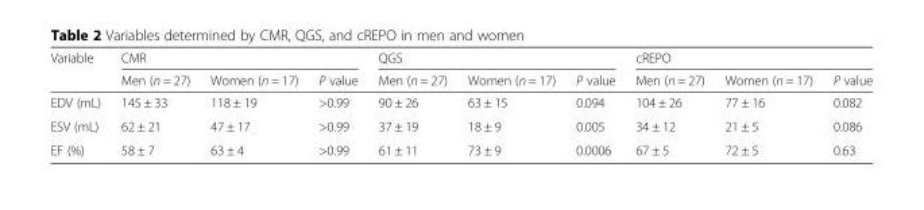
<table><thead><tr><td rowspan="2">Variable</td><td colspan="3">CMR</td><td colspan="3">QGS</td><td colspan="3">cREPO</td></tr><tr><td>Men (n = 27)</td><td>Women (n = 17)</td><td>P value</td><td>Men (n = 27)</td><td>Women (n = 17)</td><td>P value</td><td>Men (n = 27)</td><td>Women (n = 17)</td><td>P value</td></tr></thead><tbody><tr><td>EDV (mL)</td><td>145 ± 33</td><td>118 ± 19</td><td>&gt;0.99</td><td>90 ± 26</td><td>63 ± 15</td><td>0.094</td><td>104 ± 26</td><td>77 ± 16</td><td>0.082</td></tr><tr><td>ESV (mL)</td><td>62 ± 21</td><td>47 ± 17</td><td>&gt;0.99</td><td>37 ± 19</td><td>18 ± 9</td><td>0.005</td><td>34 ± 12</td><td>21 ± 5</td><td>0.086</td></tr><tr><td>EF (%)</td><td>58 ± 7</td><td>63 ± 4</td><td>&gt;0.99</td><td>61 ± 11</td><td>73 ± 9</td><td>0.0006</td><td>67 ± 5</td><td>72 ± 5</td><td>0.63</td></tr></tbody></table>